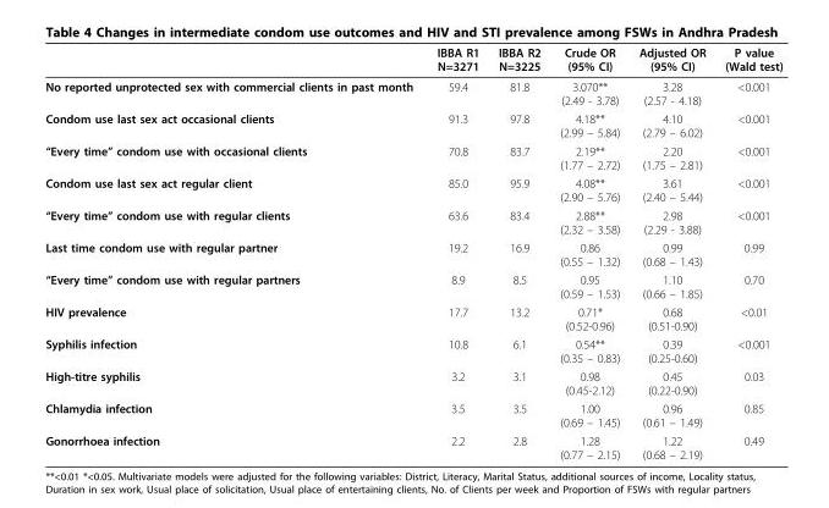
<table><thead><tr><td></td><td>IBBA R1 N=3271</td><td>IBBA R2 N=3225</td><td>Crude OR (95% CI)</td><td>Adjusted OR (95% CI)</td><td>P value (Wald test)</td></tr></thead><tbody><tr><td>No reported unprotected sex with commercial clients in past month</td><td>59.4</td><td>81.8</td><td>3.070** (2.49 - 3.78)</td><td>3.28 (2.57 - 4.18)</td><td>&lt;0.001</td></tr><tr><td>Condom use last sex act occasional clients</td><td>91.3</td><td>97.8</td><td>4.18** (2.99 – 5.84)</td><td>4.10 (2.79 – 6.02)</td><td>&lt;0.001</td></tr><tr><td>“Every time” condom use with occasional clients</td><td>70.8</td><td>83.7</td><td>2.19** (1.77 – 2.72)</td><td>2.20 (1.75 – 2.81)</td><td>&lt;0.001</td></tr><tr><td>Condom use last sex act regular client</td><td>85.0</td><td>95.9</td><td>4.08** (2.90 – 5.76)</td><td>3.61 (2.40 – 5.44)</td><td>&lt;0.001</td></tr><tr><td>“Every time” condom use with regular clients</td><td>63.6</td><td>83.4</td><td>2.88** (2.32 – 3.58)</td><td>2.98 (2.29 - 3.88)</td><td>&lt;0.001</td></tr><tr><td>Last time condom use with regular partner</td><td>19.2</td><td>16.9</td><td>0.86 (0.55 – 1.32)</td><td>0.99 (0.68 – 1.43)</td><td>0.99</td></tr><tr><td>“Every time” condom use with regular partners</td><td>8.9</td><td>8.5</td><td>0.95 (0.59 – 1.53)</td><td>1.10 (0.66 – 1.85)</td><td>0.70</td></tr><tr><td>HIV prevalence</td><td>17.7</td><td>13.2</td><td>0.71* (0.52-0.96)</td><td>0.68 (0.51-0.90)</td><td>&lt;0.01</td></tr><tr><td>Syphilis infection</td><td>10.8</td><td>6.1</td><td>0.54** (0.35 – 0.83)</td><td>0.39 (0.25-0.60)</td><td>&lt;0.001</td></tr><tr><td>High-titre syphilis</td><td>3.2</td><td>3.1</td><td>0.98 (0.45-2.12)</td><td>0.45 (0.22-0.90)</td><td>0.03</td></tr><tr><td>Chlamydia infection</td><td>3.5</td><td>3.5</td><td>1.00 (0.69 – 1.45)</td><td>0.96 (0.61 – 1.49)</td><td>0.85</td></tr><tr><td>Gonorrhoea infection</td><td>2.2</td><td>2.8</td><td>1.28 (0.77 – 2.15)</td><td>1.22 (0.68 – 2.19)</td><td>0.49</td></tr></tbody></table>